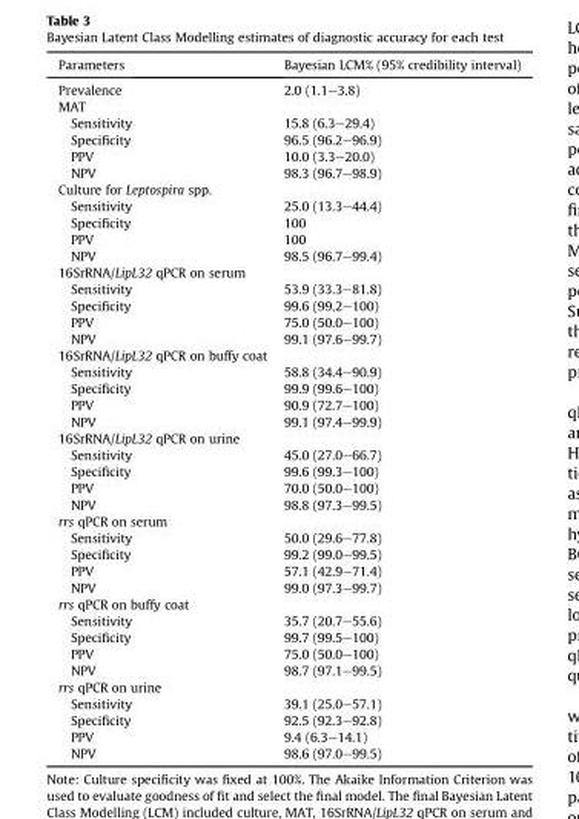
<table><thead><tr><td>Parameters</td><td>Bayesian LCM% (95% credibility interval)</td></tr></thead><tbody><tr><td>Prevalence</td><td>2.0 (1.1–3.8)</td></tr><tr><td colspan="2">MAT</td></tr><tr><td>Sensitivity</td><td>15.8 (6.3–29.4)</td></tr><tr><td>Specificity</td><td>96.5 (96.2–96.9)</td></tr><tr><td>PPV</td><td>10.0 (3.3–20.0)</td></tr><tr><td>NPV</td><td>98.3 (96.7–98.9)</td></tr><tr><td colspan="2">Culture for Leptospira spp.</td></tr><tr><td>Sensitivity</td><td>25.0 (13.3–44.4)</td></tr><tr><td>Specificity</td><td>100</td></tr><tr><td>PPV</td><td>100</td></tr><tr><td>NPV</td><td>98.5 (96.7–99.4)</td></tr><tr><td colspan="2">16SrRNA/LipL32 qPCR on serum</td></tr><tr><td>Sensitivity</td><td>53.9 (33.3–81.8)</td></tr><tr><td>Specificity</td><td>99.6 (99.2–100)</td></tr><tr><td>PPV</td><td>75.0 (50.0–100)</td></tr><tr><td>NPV</td><td>99.1 (97.6–99.7)</td></tr><tr><td colspan="2">16SrRNA/LipL32 qPCR on buffy coat</td></tr><tr><td>Sensitivity</td><td>58.8 (34.4–90.9)</td></tr><tr><td>Specificity</td><td>99.9 (99.6–100)</td></tr><tr><td>PPV</td><td>90.9 (72.7–100)</td></tr><tr><td>NPV</td><td>99.1 (97.4–99.9)</td></tr><tr><td colspan="2">16SrRNA/LipL32 qPCR on urine</td></tr><tr><td>Sensitivity</td><td>45.0 (27.0–66.7)</td></tr><tr><td>Specificity</td><td>99.6 (99.3–100)</td></tr><tr><td>PPV</td><td>70.0 (50.0–100)</td></tr><tr><td>NPV</td><td>98.8 (97.3–99.5)</td></tr><tr><td colspan="2">rrs qPCR on serum</td></tr><tr><td>Sensitivity</td><td>50.0 (29.6–77.8)</td></tr><tr><td>Specificity</td><td>99.2 (99.0–99.5)</td></tr><tr><td>PPV</td><td>57.1 (42.9–71.4)</td></tr><tr><td>NPV</td><td>99.0 (97.3–99.7)</td></tr><tr><td colspan="2">rrs qPCR on buffy coat</td></tr><tr><td>Sensitivity</td><td>35.7 (20.7–55.6)</td></tr><tr><td>Specificity</td><td>99.7 (99.5–100)</td></tr><tr><td>PPV</td><td>75.0 (50.0–100)</td></tr><tr><td>NPV</td><td>98.7 (97.1–99.5)</td></tr><tr><td colspan="2">rrs qPCR on urine</td></tr><tr><td>Sensitivity</td><td>39.1 (25.0–57.1)</td></tr><tr><td>Specificity</td><td>92.5 (92.3–92.8)</td></tr><tr><td>PPV</td><td>9.4 (6.3–14.1)</td></tr><tr><td>NPV</td><td>98.6 (97.0–99.5)</td></tr></tbody></table>